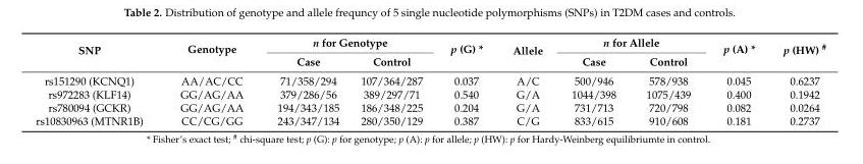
<table><thead><tr><td rowspan="2">SNP</td><td rowspan="2">Genotype</td><td colspan="2">n for Genotype</td><td rowspan="2">p (G) *</td><td rowspan="2">Allele</td><td colspan="2">n for Allele</td><td rowspan="2">p (A) *</td><td rowspan="2">p (HW) <sup>#</sup></td></tr><tr><td>Case</td><td>Control</td><td>Case</td><td>Control</td></tr></thead><tbody><tr><td>rs151290 (KCNQ1)</td><td>AA/AC/CC</td><td>71/358/294</td><td>107/364/287</td><td>0.037</td><td>A/C</td><td>500/946</td><td>578/938</td><td>0.045</td><td>0.6237</td></tr><tr><td>rs972283 (KLF14)</td><td>GG/AG/AA</td><td>379/286/56</td><td>389/297/71</td><td>0.540</td><td>G/A</td><td>1044/398</td><td>1075/439</td><td>0.400</td><td>0.1942</td></tr><tr><td>rs780094 (GCKR)</td><td>GG/AG/AA</td><td>194/343/185</td><td>186/348/225</td><td>0.204</td><td>G/A</td><td>731/713</td><td>720/798</td><td>0.082</td><td>0.0264</td></tr><tr><td>rs10830963 (MTNR1B)</td><td>CC/CG/GG</td><td>243/347/134</td><td>280/350/129</td><td>0.387</td><td>C/G</td><td>833/615</td><td>910/608</td><td>0.181</td><td>0.2737</td></tr></tbody></table>